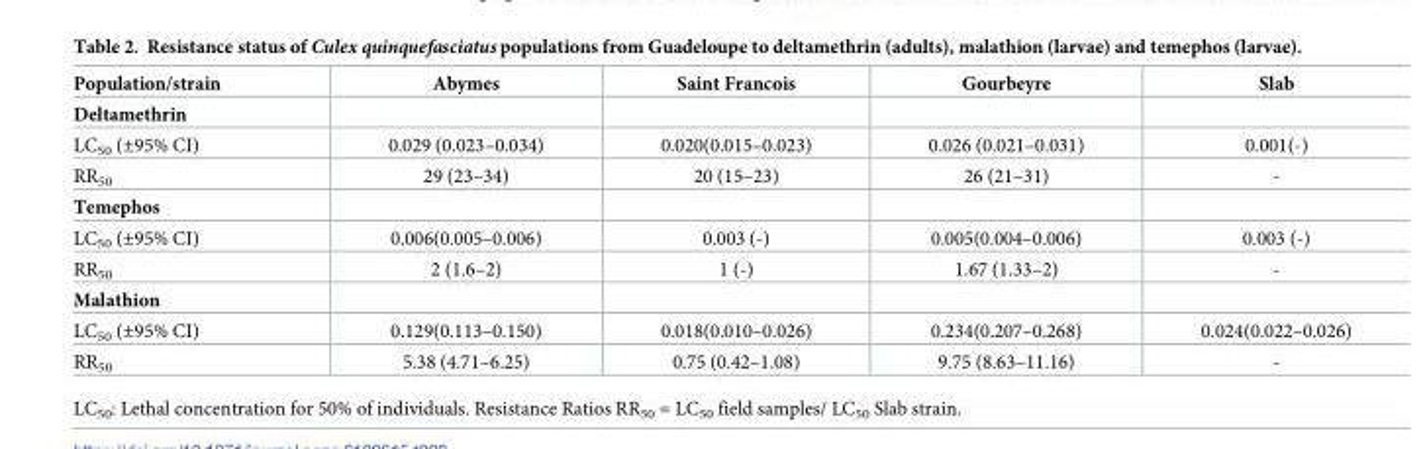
<table><thead><tr><td>Population/strain</td><td>Abymes</td><td>Saint Francois</td><td>Gourbeyre</td><td>Slab</td></tr></thead><tbody><tr><td colspan="5">Deltamethrin</td></tr><tr><td>LC<sub>50</sub> (±95% CI)</td><td>0.029 (0.023–0.034)</td><td>0.020(0.015–0.023)</td><td>0.026 (0.021–0.031)</td><td>0.001(-)</td></tr><tr><td>RR<sub>50</sub></td><td>29 (23–34)</td><td>20 (15–23)</td><td>26 (21–31)</td><td>-</td></tr><tr><td colspan="5">Temephos</td></tr><tr><td>LC<sub>50</sub> (±95% CI)</td><td>0.006(0.005–0.006)</td><td>0.003 (-)</td><td>0.005(0.004–0.006)</td><td>0.003 (-)</td></tr><tr><td>RR<sub>50</sub></td><td>2 (1.6–2)</td><td>1 (-)</td><td>1.67 (1.33–2)</td><td>-</td></tr><tr><td colspan="5">Malathion</td></tr><tr><td>LC<sub>50</sub> (±95% CI)</td><td>0.129(0.113–0.150)</td><td>0.018(0.010–0.026)</td><td>0.234(0.207–0.268)</td><td>0.024(0.022–0.026)</td></tr><tr><td>RR<sub>50</sub></td><td>5.38 (4.71–6.25)</td><td>0.75 (0.42–1.08)</td><td>9.75 (8.63–11.16)</td><td>-</td></tr></tbody></table>